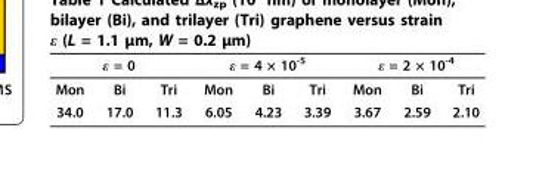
<table><thead><tr><td colspan="3">ε = 0</td><td colspan="3">ε = 4 × 10<sup>-5</sup></td><td colspan="3">ε = 2 × 10<sup>-4</sup></td></tr><tr><td>Mon</td><td>Bi</td><td>Tri</td><td>Mon</td><td>Bi</td><td>Tri</td><td>Mon</td><td>Bi</td><td>Tri</td></tr></thead><tbody><tr><td>34.0</td><td>17.0</td><td>11.3</td><td>6.05</td><td>4.23</td><td>3.39</td><td>3.67</td><td>2.59</td><td>2.10</td></tr></tbody></table>